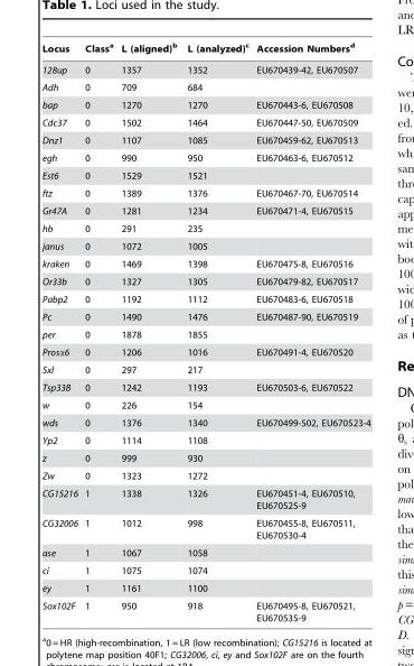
<table><thead><tr><td>Locus</td><td>Class<sup>a</sup></td><td>L (aligned)<sup>b</sup></td><td>L (analyzed)<sup>c</sup></td><td>Accession Numbers<sup>d</sup></td></tr></thead><tbody><tr><td>128up</td><td>0</td><td>1357</td><td>1352</td><td>EU670439-42, EU670507</td></tr><tr><td>Adh</td><td>0</td><td>709</td><td>684</td><td></td></tr><tr><td>bap</td><td>0</td><td>1270</td><td>1270</td><td>EU670443-6, EU670508</td></tr><tr><td>Cdc37</td><td>0</td><td>1502</td><td>1464</td><td>EU670447-50, EU670509</td></tr><tr><td>Dnz1</td><td>0</td><td>1107</td><td>1085</td><td>EU670459-62, EU670513</td></tr><tr><td>egh</td><td>0</td><td>990</td><td>950</td><td>EU670463-6, EU670512</td></tr><tr><td>Est6</td><td>0</td><td>1529</td><td>1521</td><td></td></tr><tr><td>ftz</td><td>0</td><td>1389</td><td>1376</td><td>EU670467-70, EU670514</td></tr><tr><td>Gr47A</td><td>0</td><td>1281</td><td>1234</td><td>EU670471-4, EU670515</td></tr><tr><td>hb</td><td>0</td><td>291</td><td>235</td><td></td></tr><tr><td>janus</td><td>0</td><td>1072</td><td>1005</td><td></td></tr><tr><td>kraken</td><td>0</td><td>1469</td><td>1398</td><td>EU670475-8, EU670516</td></tr><tr><td>Or33b</td><td>0</td><td>1327</td><td>1305</td><td>EU670479-82, EU670517</td></tr><tr><td>Pabp2</td><td>0</td><td>1192</td><td>1112</td><td>EU670483-6, EU670518</td></tr><tr><td>Pc</td><td>0</td><td>1490</td><td>1476</td><td>EU670487-90, EU670519</td></tr><tr><td>per</td><td>0</td><td>1878</td><td>1855</td><td></td></tr><tr><td>Prosα6</td><td>0</td><td>1206</td><td>1016</td><td>EU670491-4, EU670520</td></tr><tr><td>Sxl</td><td>0</td><td>297</td><td>217</td><td></td></tr><tr><td>Tsp33B</td><td>0</td><td>1242</td><td>1193</td><td>EU670503-6, EU670522</td></tr><tr><td>w</td><td>0</td><td>226</td><td>154</td><td></td></tr><tr><td>wds</td><td>0</td><td>1376</td><td>1340</td><td>EU670499-502, EU670523-4</td></tr><tr><td>Yp2</td><td>0</td><td>1114</td><td>1108</td><td></td></tr><tr><td>z</td><td>0</td><td>999</td><td>930</td><td></td></tr><tr><td>Zw</td><td>0</td><td>1323</td><td>1272</td><td></td></tr><tr><td>CG15216</td><td>1</td><td>1338</td><td>1326</td><td>EU670451-4, EU670510, EU670525-9</td></tr><tr><td>CG32006</td><td>1</td><td>1012</td><td>998</td><td>EU670455-8, EU670511, EU670530-4</td></tr><tr><td>ase</td><td>1</td><td>1067</td><td>1058</td><td></td></tr><tr><td>ci</td><td>1</td><td>1075</td><td>1074</td><td></td></tr><tr><td>ey</td><td>1</td><td>1161</td><td>1100</td><td></td></tr><tr><td>Sox102F</td><td>1</td><td>950</td><td>918</td><td>EU670495-8, EU670521, EU670535-9</td></tr></tbody></table>